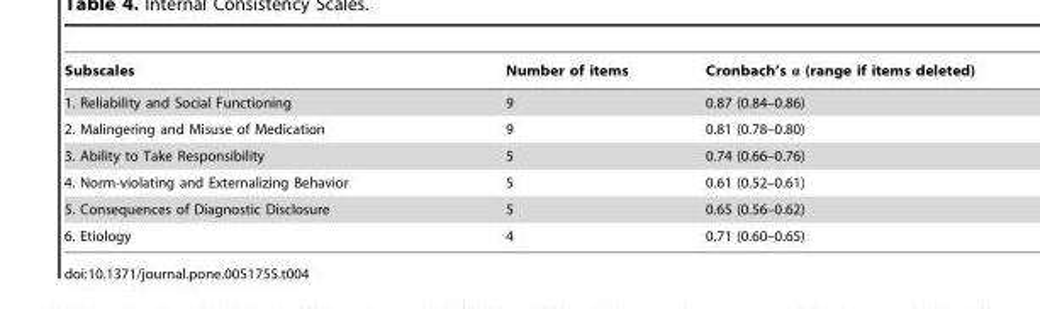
<table><thead><tr><td>Subscales</td><td>Number of items</td><td>Cronbach’s α (range if items deleted)</td></tr></thead><tbody><tr><td>1. Reliability and Social Functioning</td><td>9</td><td>0.87 (0.84–0.86)</td></tr><tr><td>2. Malingering and Misuse of Medication</td><td>9</td><td>0.81 (0.78–0.80)</td></tr><tr><td>3. Ability to Take Responsibility</td><td>5</td><td>0.74 (0.66–0.76)</td></tr><tr><td>4. Norm-violating and Externalizing Behavior</td><td>5</td><td>0.61 (0.52–0.61)</td></tr><tr><td>5. Consequences of Diagnostic Disclosure</td><td>5</td><td>0.65 (0.56–0.62)</td></tr><tr><td>6. Etiology</td><td>4</td><td>0.71 (0.60–0.65)</td></tr></tbody></table>